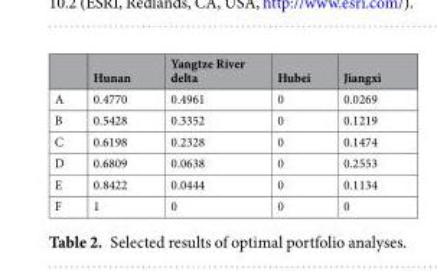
<table><thead><tr><td></td><td>Hunan</td><td>Yangtze River delta</td><td>Hubei</td><td>Jiangxi</td></tr></thead><tbody><tr><td>A</td><td>0.4770</td><td>0.4961</td><td>0</td><td>0.0269</td></tr><tr><td>B</td><td>0.5428</td><td>0.3352</td><td>0</td><td>0.1219</td></tr><tr><td>C</td><td>0.6198</td><td>0.2328</td><td>0</td><td>0.1474</td></tr><tr><td>D</td><td>0.6809</td><td>0.0638</td><td>0</td><td>0.2553</td></tr><tr><td>E</td><td>0.8422</td><td>0.0444</td><td>0</td><td>0.1134</td></tr><tr><td>F</td><td>1</td><td>0</td><td>0</td><td>0</td></tr></tbody></table>